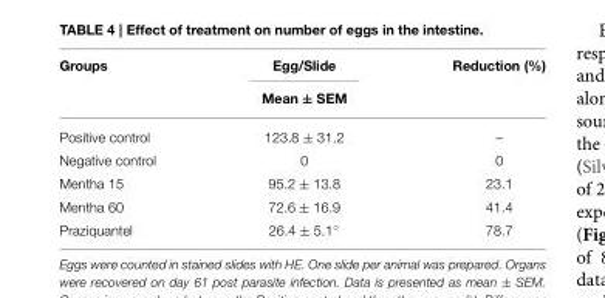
<table><thead><tr><td rowspan="2">Groups</td><td rowspan="2">Egg/Slide Mean ± SEM</td><td rowspan="2">Reduction (%)</td></tr><tr></tr></thead><tbody><tr><td>Positive control</td><td>123.8 ± 31.2</td><td>–</td></tr><tr><td>Negative control</td><td>0</td><td>0</td></tr><tr><td>Mentha 15</td><td>95.2 ± 13.8</td><td>23.1</td></tr><tr><td>Mentha 60</td><td>72.6 ± 16.9</td><td>41.4</td></tr><tr><td>Praziquantel</td><td>26.4 ± 5.1◦</td><td>78.7</td></tr></tbody></table>